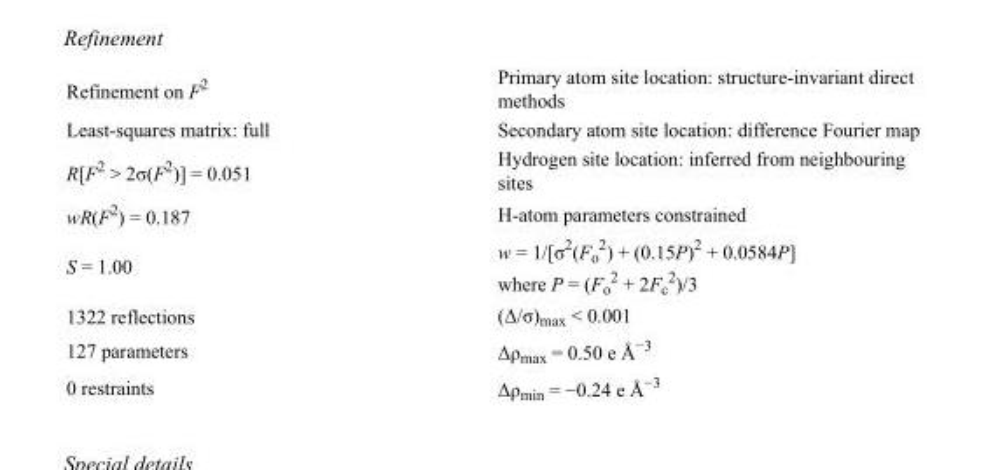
<table><tbody><tr><td>Refinement on F<sup>2</sup></td><td>Primary atom site location: structure-invariant direct methods</td></tr><tr><td>Least-squares matrix: full</td><td>Secondary atom site location: difference Fourier map</td></tr><tr><td>R[F<sup>2</sup> &gt; 2σ(F<sup>2</sup>)] = 0.051</td><td>Hydrogen site location: inferred from neighbouring sites</td></tr><tr><td>wR(F<sup>2</sup>) = 0.187</td><td>H-atom parameters constrained</td></tr><tr><td>S = 1.00</td><td>w = 1/[σ<sup>2</sup>(F<sub>o</sub> <sup>2</sup>) + (0.15P)<sup>2</sup> + 0.0584P] where P = (F<sub>o</sub> <sup>2</sup> + 2F<sub>c</sub> <sup>2</sup>)/3</td></tr><tr><td>1322 reflections</td><td>(Δ/σ)<sub>max</sub> &lt; 0.001</td></tr><tr><td>127 parameters</td><td>Δρ<sub>max</sub> = 0.50 e Å<sup>−3</sup></td></tr><tr><td>0 restraints</td><td>Δρ<sub>min</sub> = −0.24 e Å<sup>−3</sup></td></tr></tbody></table>